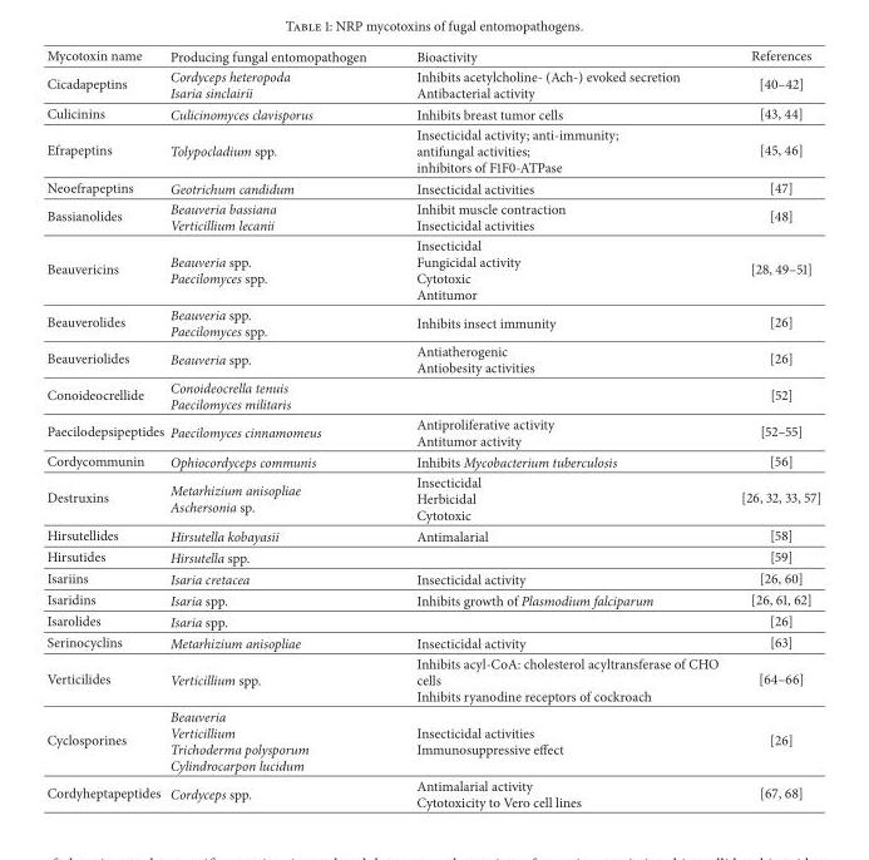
<table><thead><tr><td>Mycotoxin name</td><td>Producing fungal entomopathogen</td><td>Bioactivity</td><td>References</td></tr></thead><tbody><tr><td>Cicadapeptins</td><td>Cordyceps heteropoda Isaria sinclairii</td><td>Inhibits acetylcholine- (Ach-) evoked secretion Antibacterial activity</td><td>[40–42]</td></tr><tr><td>Culicinins</td><td>Culicinomyces clavisporus</td><td>Inhibits breast tumor cells</td><td>[43, 44]</td></tr><tr><td>Efrapeptins</td><td>Tolypocladium spp.</td><td>Insecticidal activity; anti-immunity; antifungal activities; inhibitors of F1F0-ATPase</td><td>[45, 46]</td></tr><tr><td>Neoefrapeptins</td><td>Geotrichum candidum</td><td>Insecticidal activities</td><td>[47]</td></tr><tr><td>Bassianolides</td><td>Beauveria bassiana Verticillium lecanii</td><td>Inhibit muscle contraction Insecticidal activities</td><td>[48]</td></tr><tr><td>Beauvericins</td><td>Beauveria spp. Paecilomyces spp.</td><td>Insecticidal Fungicidal activity Cytotoxic Antitumor</td><td>[28, 49–51]</td></tr><tr><td>Beauverolides</td><td>Beauveria spp. Paecilomyces spp.</td><td>Inhibits insect immunity</td><td>[26]</td></tr><tr><td>Beauveriolides</td><td>Beauveria spp.</td><td>Antiatherogenic Antiobesity activities</td><td>[26]</td></tr><tr><td>Conoideocrellide</td><td>Conoideocrella tenuis Paecilomyces militaris</td><td></td><td>[52]</td></tr><tr><td>Paecilodepsipeptides</td><td>Paecilomyces cinnamomeus</td><td>Antiproliferative activity Antitumor activity</td><td>[52–55]</td></tr><tr><td>Cordycommunin</td><td>Ophiocordyceps communis</td><td>Inhibits Mycobacterium tuberculosis</td><td>[56]</td></tr><tr><td>Destruxins</td><td>Metarhizium anisopliae Aschersonia sp.</td><td>Insecticidal Herbicidal Cytotoxic</td><td>[26, 32, 33, 57]</td></tr><tr><td>Hirsutellides</td><td>Hirsutella kobayasii</td><td>Antimalarial</td><td>[58]</td></tr><tr><td>Hirsutides</td><td>Hirsutella spp.</td><td></td><td>[59]</td></tr><tr><td>Isariins</td><td>Isaria cretacea</td><td>Insecticidal activity</td><td>[26, 60]</td></tr><tr><td>Isaridins</td><td>Isaria spp.</td><td>Inhibits growth of Plasmodium falciparum</td><td>[26, 61, 62]</td></tr><tr><td>Isarolides</td><td>Isaria spp.</td><td></td><td>[26]</td></tr><tr><td>Serinocyclins</td><td>Metarhizium anisopliae</td><td>Insecticidal activity</td><td>[63]</td></tr><tr><td>Verticilides</td><td>Verticillium spp.</td><td>Inhibits acyl-CoA: cholesterol acyltransferase of CHO cells Inhibits ryanodine receptors of cockroach</td><td>[64–66]</td></tr><tr><td>Cyclosporines</td><td>Beauveria Verticillium Trichoderma polysporum Cylindrocarpon lucidum</td><td>Insecticidal activities Immunosuppressive effect</td><td>[26]</td></tr><tr><td>Cordyheptapeptides</td><td>Cordyceps spp.</td><td>Antimalarial activity Cytotoxicity to Vero cell lines</td><td>[67, 68]</td></tr></tbody></table>